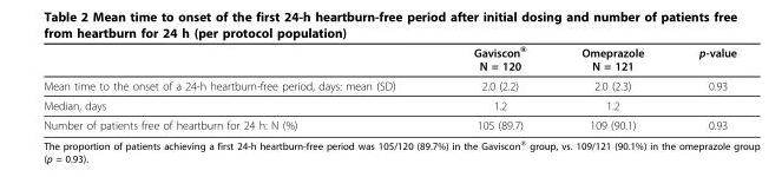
<table><thead><tr><td></td><td>Gaviscon<sup>®</sup> N = 120</td><td>Omeprazole N = 121</td><td>p-value</td></tr></thead><tbody><tr><td>Mean time to the onset of a 24-h heartburn-free period, days: mean (SD)</td><td>2.0 (2.2)</td><td>2.0 (2.3)</td><td>0.93</td></tr><tr><td>Median, days</td><td>1.2</td><td>1.2</td><td></td></tr><tr><td>Number of patients free of heartburn for 24 h: N (%)</td><td>105 (89.7)</td><td>109 (90.1)</td><td>0.93</td></tr></tbody></table>